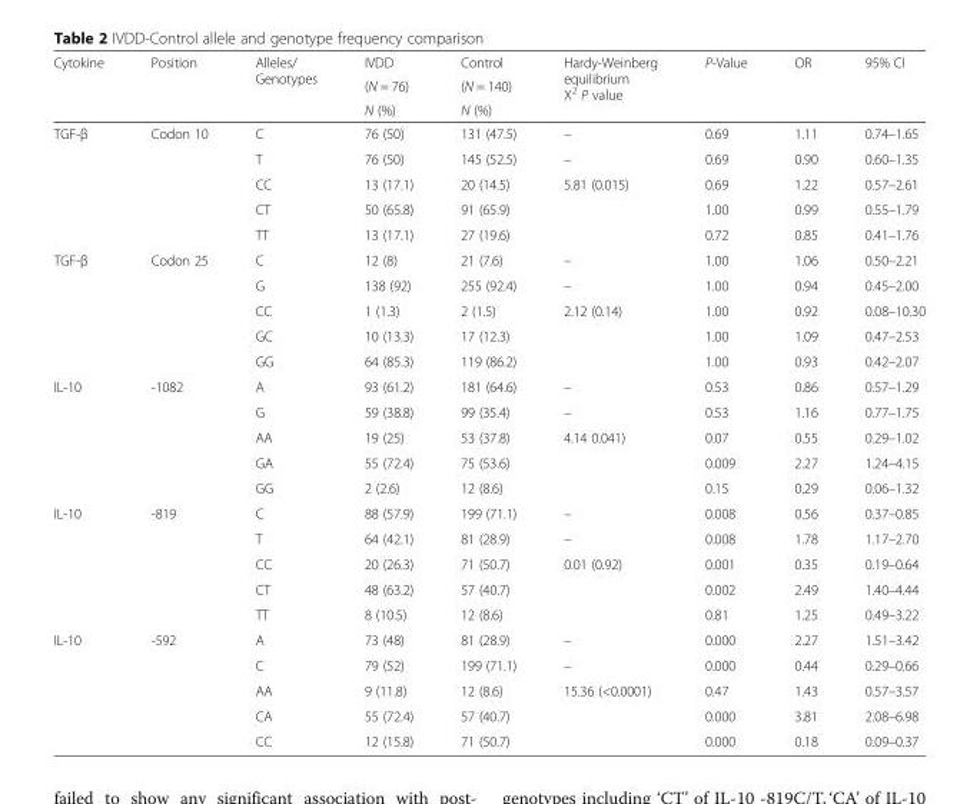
<table><thead><tr><td rowspan="3">Cytokine</td><td rowspan="3">Position</td><td rowspan="3">Alleles/ Genotypes</td><td rowspan="3">IVDD (N = 76) N (%)</td><td rowspan="3">Control (N = 140) N (%)</td><td rowspan="3">Hardy-Weinberg equilibrium X<sup>2</sup> P value</td><td rowspan="3">P-Value</td><td rowspan="3">OR</td><td rowspan="3">95% CI</td></tr><tr></tr><tr></tr></thead><tbody><tr><td rowspan="5">TGF-β</td><td rowspan="5">Codon 10</td><td>C</td><td>76 (50)</td><td>131 (47.5)</td><td>–</td><td>0.69</td><td>1.11</td><td>0.74–1.65</td></tr><tr><td>T</td><td>76 (50)</td><td>145 (52.5)</td><td>–</td><td>0.69</td><td>0.90</td><td>0.60–1.35</td></tr><tr><td>CC</td><td>13 (17.1)</td><td>20 (14.5)</td><td rowspan="3">5.81 (0.015)</td><td>0.69</td><td>1.22</td><td>0.57–2.61</td></tr><tr><td>CT</td><td>50 (65.8)</td><td>91 (65.9)</td><td>1.00</td><td>0.99</td><td>0.55–1.79</td></tr><tr><td>TT</td><td>13 (17.1)</td><td>27 (19.6)</td><td>0.72</td><td>0.85</td><td>0.41–1.76</td></tr><tr><td rowspan="5">TGF-β</td><td rowspan="5">Codon 25</td><td>C</td><td>12 (8)</td><td>21 (7.6)</td><td>–</td><td>1.00</td><td>1.06</td><td>0.50–2.21</td></tr><tr><td>G</td><td>138 (92)</td><td>255 (92.4)</td><td>–</td><td>1.00</td><td>0.94</td><td>0.45–2.00</td></tr><tr><td>CC</td><td>1 (1.3)</td><td>2 (1.5)</td><td rowspan="3">2.12 (0.14)</td><td>1.00</td><td>0.92</td><td>0.08–10.30</td></tr><tr><td>GC</td><td>10 (13.3)</td><td>17 (12.3)</td><td>1.00</td><td>1.09</td><td>0.47–2.53</td></tr><tr><td>GG</td><td>64 (85.3)</td><td>119 (86.2)</td><td>1.00</td><td>0.93</td><td>0.42–2.07</td></tr><tr><td rowspan="5">IL-10</td><td rowspan="5">-1082</td><td>A</td><td>93 (61.2)</td><td>181 (64.6)</td><td>–</td><td>0.53</td><td>0.86</td><td>0.57–1.29</td></tr><tr><td>G</td><td>59 (38.8)</td><td>99 (35.4)</td><td>–</td><td>0.53</td><td>1.16</td><td>0.77–1.75</td></tr><tr><td>AA</td><td>19 (25)</td><td>53 (37.8)</td><td rowspan="3">4.14 0.041)</td><td>0.07</td><td>0.55</td><td>0.29–1.02</td></tr><tr><td>GA</td><td>55 (72.4)</td><td>75 (53.6)</td><td>0.009</td><td>2.27</td><td>1.24–4.15</td></tr><tr><td>GG</td><td>2 (2.6)</td><td>12 (8.6)</td><td>0.15</td><td>0.29</td><td>0.06–1.32</td></tr><tr><td rowspan="5">IL-10</td><td rowspan="5">-819</td><td>C</td><td>88 (57.9)</td><td>199 (71.1)</td><td>–</td><td>0.008</td><td>0.56</td><td>0.37–0.85</td></tr><tr><td>T</td><td>64 (42.1)</td><td>81 (28.9)</td><td>–</td><td>0.008</td><td>1.78</td><td>1.17–2.70</td></tr><tr><td>CC</td><td>20 (26.3)</td><td>71 (50.7)</td><td rowspan="3">0.01 (0.92)</td><td>0.001</td><td>0.35</td><td>0.19–0.64</td></tr><tr><td>CT</td><td>48 (63.2)</td><td>57 (40.7)</td><td>0.002</td><td>2.49</td><td>1.40–4.44</td></tr><tr><td>TT</td><td>8 (10.5)</td><td>12 (8.6)</td><td>0.81</td><td>1.25</td><td>0.49–3.22</td></tr><tr><td rowspan="5">IL-10</td><td rowspan="5">-592</td><td>A</td><td>73 (48)</td><td>81 (28.9)</td><td>–</td><td>0.000</td><td>2.27</td><td>1.51–3.42</td></tr><tr><td>C</td><td>79 (52)</td><td>199 (71.1)</td><td>–</td><td>0.000</td><td>0.44</td><td>0.29–0.66</td></tr><tr><td>AA</td><td>9 (11.8)</td><td>12 (8.6)</td><td rowspan="3">15.36 (&lt;0.0001)</td><td>0.47</td><td>1.43</td><td>0.57–3.57</td></tr><tr><td>CA</td><td>55 (72.4)</td><td>57 (40.7)</td><td>0.000</td><td>3.81</td><td>2.08–6.98</td></tr><tr><td>CC</td><td>12 (15.8)</td><td>71 (50.7)</td><td>0.000</td><td>0.18</td><td>0.09–0.37</td></tr></tbody></table>